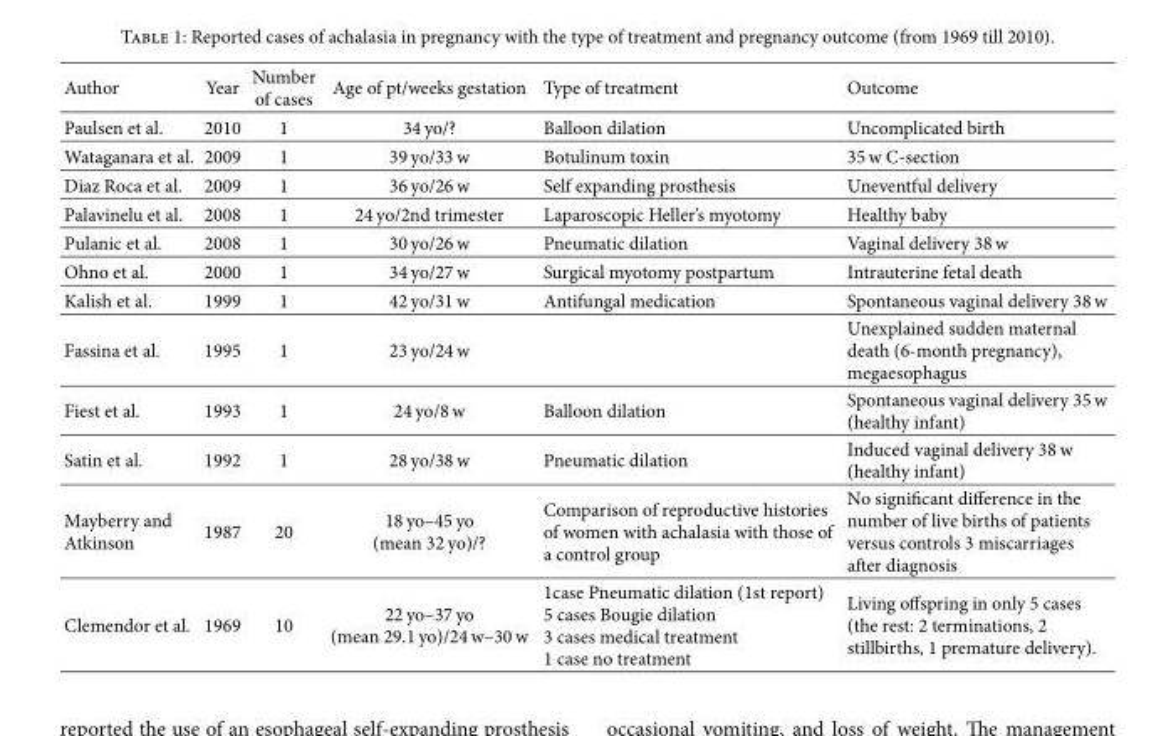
<table><thead><tr><td>Author</td><td>Year</td><td>Number of cases</td><td>Age of pt/weeks gestation</td><td>Type of treatment</td><td>Outcome</td></tr></thead><tbody><tr><td>Paulsen et al.</td><td>2010</td><td>1</td><td>34 yo/?</td><td>Balloon dilation</td><td>Uncomplicated birth</td></tr><tr><td>Wataganara et al.</td><td>2009</td><td>1</td><td>39 yo/33 w</td><td>Botulinum toxin</td><td>35 w C-section</td></tr><tr><td>Diaz Roca et al.</td><td>2009</td><td>1</td><td>36 yo/26 w</td><td>Self expanding prosthesis</td><td>Uneventful delivery</td></tr><tr><td>Palavinelu et al.</td><td>2008</td><td>1</td><td>24 yo/2nd trimester</td><td>Laparoscopic Heller’s myotomy</td><td>Healthy baby</td></tr><tr><td>Pulanic et al.</td><td>2008</td><td>1</td><td>30 yo/26 w</td><td>Pneumatic dilation</td><td>Vaginal delivery 38 w</td></tr><tr><td>Ohno et al.</td><td>2000</td><td>1</td><td>34 yo/27 w</td><td>Surgical myotomy postpartum</td><td>Intrauterine fetal death</td></tr><tr><td>Kalish et al.</td><td>1999</td><td>1</td><td>42 yo/31 w</td><td>Antifungal medication</td><td>Spontaneous vaginal delivery 38 w</td></tr><tr><td>Fassina et al.</td><td>1995</td><td>1</td><td>23 yo/24 w</td><td></td><td>Unexplained sudden maternal death (6-month pregnancy), megaesophagus</td></tr><tr><td>Fiest et al.</td><td>1993</td><td>1</td><td>24 yo/8 w</td><td>Balloon dilation</td><td>Spontaneous vaginal delivery 35 w (healthy infant)</td></tr><tr><td>Satin et al.</td><td>1992</td><td>1</td><td>28 yo/38 w</td><td>Pneumatic dilation</td><td>Induced vaginal delivery 38 w (healthy infant)</td></tr><tr><td>Mayberry and Atkinson</td><td>1987</td><td>20</td><td>18 yo–45 yo (mean 32 yo)/?</td><td>Comparison of reproductive histories of women with achalasia with those of a control group</td><td>No signi�cant difference in the number of live births of patients versus controls 3 miscarriages aer diagnosis</td></tr><tr><td>Clemendor et al.</td><td>1969</td><td>10</td><td>22 yo–37 yo (mean 29.1 yo)/24 w–30 w</td><td>1case Pneumatic dilation (1st report) 5 cases Bougie dilation 3 cases medical treatment 1 case no treatment</td><td>Living offspring in only 5 cases (the rest: 2 terminations, 2 stillbirths, 1 premature delivery).</td></tr></tbody></table>